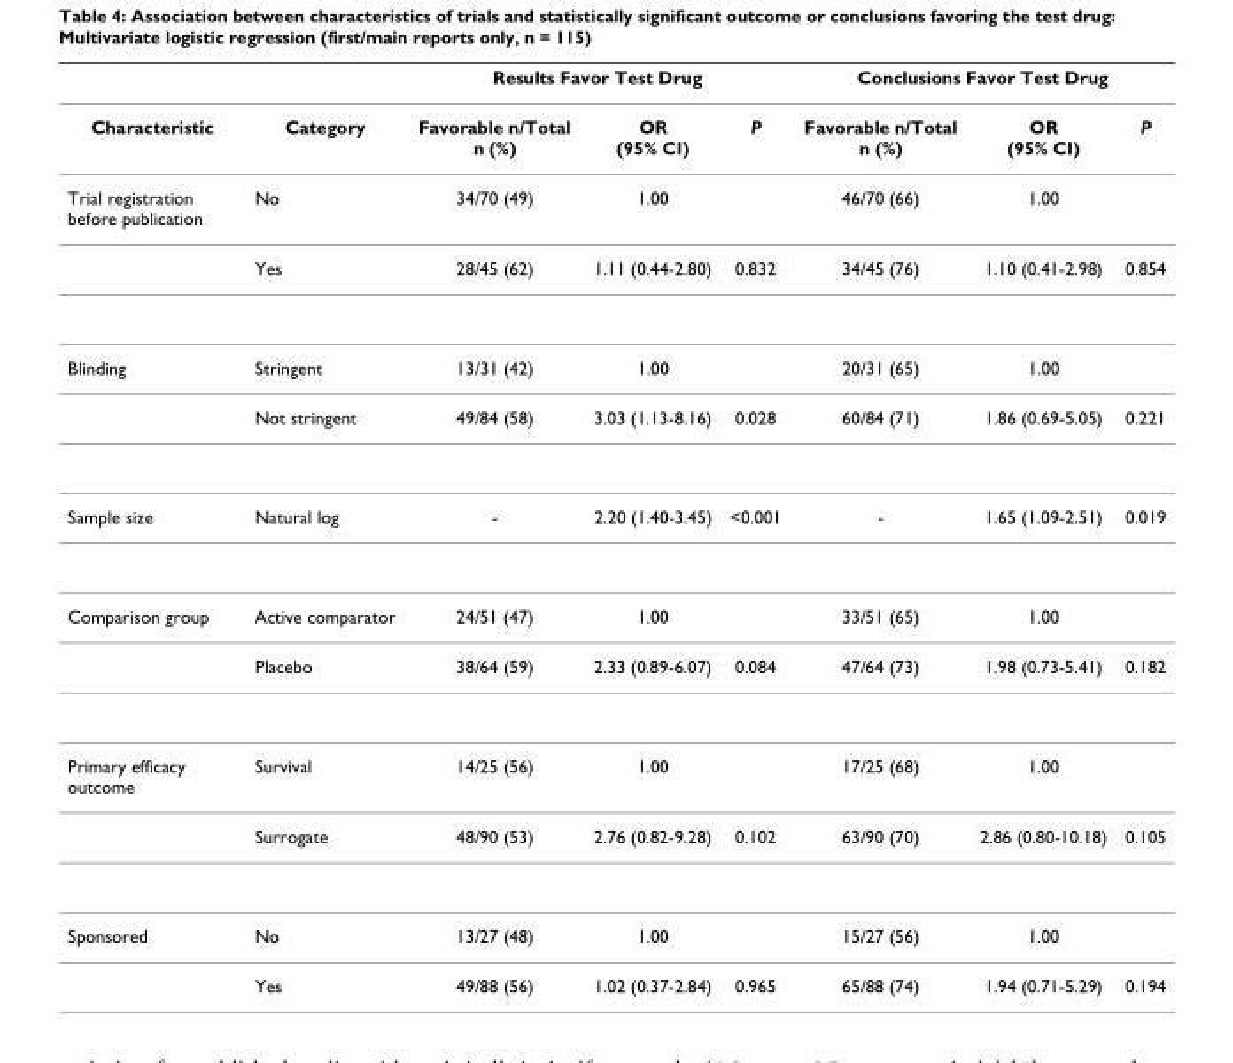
<table><thead><tr><td rowspan="2">Characteristic</td><td rowspan="2">Category</td><td colspan="3">Results Favor Test Drug</td><td colspan="3">Conclusions Favor Test Drug</td></tr><tr><td>Favorable n/Total n (%)</td><td>OR (95% CI)</td><td>P</td><td>Favorable n/Total n (%)</td><td>OR (95% CI)</td><td>P</td></tr></thead><tbody><tr><td rowspan="2">Trial registration before publication</td><td>No</td><td>34/70 (49)</td><td>1.00</td><td></td><td>46/70 (66)</td><td>1.00</td><td></td></tr><tr><td>Yes</td><td>28/45 (62)</td><td>1.11 (0.44-2.80)</td><td>0.832</td><td>34/45 (76)</td><td>1.10 (0.41-2.98)</td><td>0.854</td></tr><tr><td rowspan="2">Blinding</td><td>Stringent</td><td>13/31 (42)</td><td>1.00</td><td></td><td>20/31 (65)</td><td>1.00</td><td></td></tr><tr><td>Not stringent</td><td>49/84 (58)</td><td>3.03 (1.13-8.16)</td><td>0.028</td><td>60/84 (71)</td><td>1.86 (0.69-5.05)</td><td>0.221</td></tr><tr><td>Sample size</td><td>Natural log</td><td>-</td><td>2.20 (1.40-3.45)</td><td>&lt;0.001</td><td>-</td><td>1.65 (1.09-2.51)</td><td>0.019</td></tr><tr><td rowspan="2">Comparison group</td><td>Active comparator</td><td>24/51 (47)</td><td>1.00</td><td></td><td>33/51 (65)</td><td>1.00</td><td></td></tr><tr><td>Placebo</td><td>38/64 (59)</td><td>2.33 (0.89-6.07)</td><td>0.084</td><td>47/64 (73)</td><td>1.98 (0.73-5.41)</td><td>0.182</td></tr><tr><td rowspan="2">Primary efficacy outcome</td><td>Survival</td><td>14/25 (56)</td><td>1.00</td><td></td><td>17/25 (68)</td><td>1.00</td><td></td></tr><tr><td>Surrogate</td><td>48/90 (53)</td><td>2.76 (0.82-9.28)</td><td>0.102</td><td>63/90 (70)</td><td>2.86 (0.80-10.18)</td><td>0.105</td></tr><tr><td rowspan="2">Sponsored</td><td>No</td><td>13/27 (48)</td><td>1.00</td><td></td><td>15/27 (56)</td><td>1.00</td><td></td></tr><tr><td>Yes</td><td>49/88 (56)</td><td>1.02 (0.37-2.84)</td><td>0.965</td><td>65/88 (74)</td><td>1.94 (0.71-5.29)</td><td>0.194</td></tr></tbody></table>